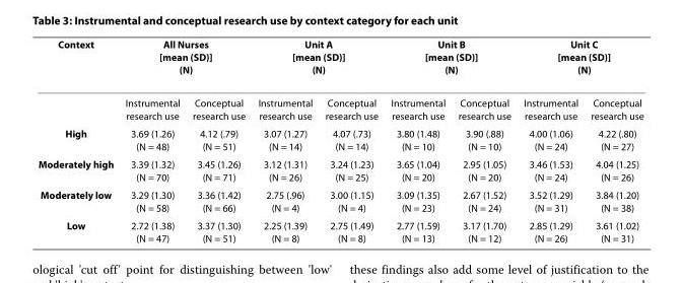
<table><thead><tr><td rowspan="2">Context</td><td colspan="2">All Nurses [mean (SD)] (N)</td><td colspan="2">Unit A [mean (SD)] (N)</td><td colspan="2">Unit B [mean (SD)] (N)</td><td colspan="2">Unit C [mean (SD)] (N)</td></tr><tr><td>Instrumental research use</td><td>Conceptual research use</td><td>Instrumental research use</td><td>Conceptual research use</td><td>Instrumental research use</td><td>Conceptual research use</td><td>Instrumental research use</td><td>Conceptual research use</td></tr></thead><tbody><tr><td>High</td><td>3.69 (1.26) (N = 48)</td><td>4.12 (.79) (N = 51)</td><td>3.07 (1.27) (N = 14)</td><td>4.07 (.73) (N = 14)</td><td>3.80 (1.48) (N = 10)</td><td>3.90 (.88) (N = 10)</td><td>4.00 (1.06) (N = 24)</td><td>4.22 (.80) (N = 27)</td></tr><tr><td>Moderately high</td><td>3.39 (1.32) (N = 70)</td><td>3.45 (1.26) (N = 71)</td><td>3.12 (1.31) (N = 26)</td><td>3.24 (1.23) (N = 25)</td><td>3.65 (1.04) (N = 20)</td><td>2.95 (1.05) (N = 20)</td><td>3.46 (1.53) (N = 24)</td><td>4.04 (1.25) (N = 26)</td></tr><tr><td>Moderately low</td><td>3.29 (1.30) (N = 58)</td><td>3.36 (1.42) (N = 66)</td><td>2.75 (.96) (N = 4)</td><td>3.00 (1.15) (N = 4)</td><td>3.09 (1.35) (N = 23)</td><td>2.67 (1.52) (N = 24)</td><td>3.52 (1.29) (N = 31)</td><td>3.84 (1.20) (N = 38)</td></tr><tr><td>Low</td><td>2.72 (1.38) (N = 47)</td><td>3.37 (1.30) (N = 51)</td><td>2.25 (1.39) (N = 8)</td><td>2.75 (1.49) (N = 8)</td><td>2.77 (1.59) (N = 13)</td><td>3.17 (1.70) (N = 12)</td><td>2.85 (1.29) (N = 26)</td><td>3.61 (1.02) (N = 31)</td></tr></tbody></table>